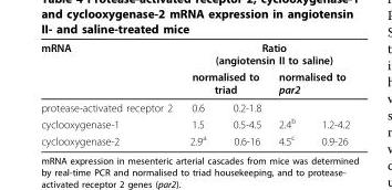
<table><thead><tr><td rowspan="3">mRNA protease-activated receptor 2</td><td colspan="4">Ratio (angiotensin II to saline)</td></tr><tr><td colspan="2">normalised to triad</td><td colspan="2">normalised to par2</td></tr><tr><td>0.6</td><td>0.2-1.8</td><td></td><td></td></tr></thead><tbody><tr><td>cyclooxygenase-1</td><td>1.5</td><td>0.5-4.5</td><td>2.4<sup>b</sup></td><td>1.2-4.2</td></tr><tr><td>cyclooxygenase-2</td><td>2.9<sup>a</sup></td><td>0.6-16</td><td>4.5<sup>c</sup></td><td>0.9-26</td></tr></tbody></table>